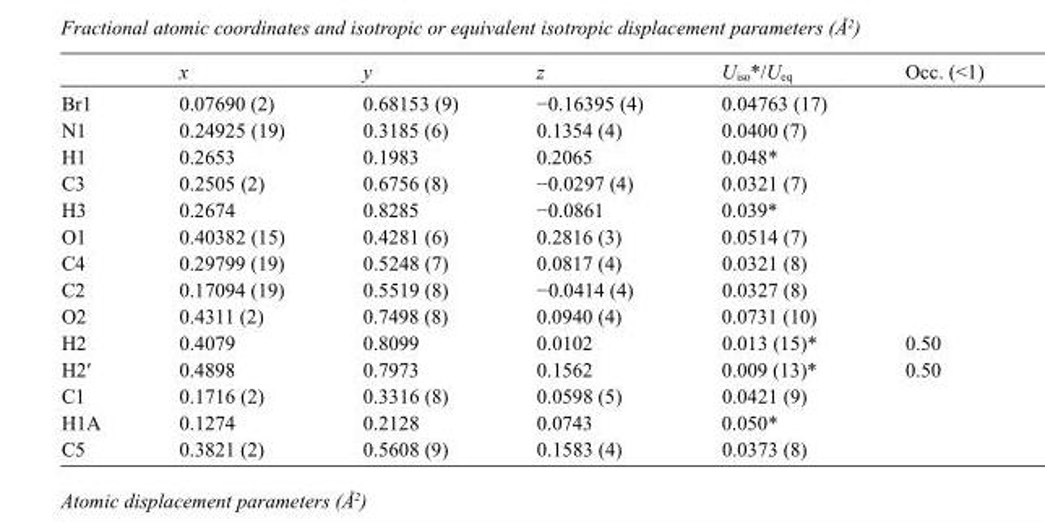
<table><thead><tr><td></td><td>x</td><td>y</td><td>z</td><td>U<sub>iso</sub>*/U<sub>eq</sub></td><td>Occ. (&lt;1)</td></tr></thead><tbody><tr><td>Br1</td><td>0.07690 (2)</td><td>0.68153 (9)</td><td>−0.16395 (4)</td><td>0.04763 (17)</td><td></td></tr><tr><td>N1</td><td>0.24925 (19)</td><td>0.3185 (6)</td><td>0.1354 (4)</td><td>0.0400 (7)</td><td></td></tr><tr><td>H1</td><td>0.2653</td><td>0.1983</td><td>0.2065</td><td>0.048*</td><td></td></tr><tr><td>C3</td><td>0.2505 (2)</td><td>0.6756 (8)</td><td>−0.0297 (4)</td><td>0.0321 (7)</td><td></td></tr><tr><td>H3</td><td>0.2674</td><td>0.8285</td><td>−0.0861</td><td>0.039*</td><td></td></tr><tr><td>O1</td><td>0.40382 (15)</td><td>0.4281 (6)</td><td>0.2816 (3)</td><td>0.0514 (7)</td><td></td></tr><tr><td>C4</td><td>0.29799 (19)</td><td>0.5248 (7)</td><td>0.0817 (4)</td><td>0.0321 (8)</td><td></td></tr><tr><td>C2</td><td>0.17094 (19)</td><td>0.5519 (8)</td><td>−0.0414 (4)</td><td>0.0327 (8)</td><td></td></tr><tr><td>O2</td><td>0.4311 (2)</td><td>0.7498 (8)</td><td>0.0940 (4)</td><td>0.0731 (10)</td><td></td></tr><tr><td>H2</td><td>0.4079</td><td>0.8099</td><td>0.0102</td><td>0.013 (15)*</td><td>0.50</td></tr><tr><td>H2′</td><td>0.4898</td><td>0.7973</td><td>0.1562</td><td>0.009 (13)*</td><td>0.50</td></tr><tr><td>C1</td><td>0.1716 (2)</td><td>0.3316 (8)</td><td>0.0598 (5)</td><td>0.0421 (9)</td><td></td></tr><tr><td>H1A</td><td>0.1274</td><td>0.2128</td><td>0.0743</td><td>0.050*</td><td></td></tr><tr><td>C5</td><td>0.3821 (2)</td><td>0.5608 (9)</td><td>0.1583 (4)</td><td>0.0373 (8)</td><td></td></tr></tbody></table>